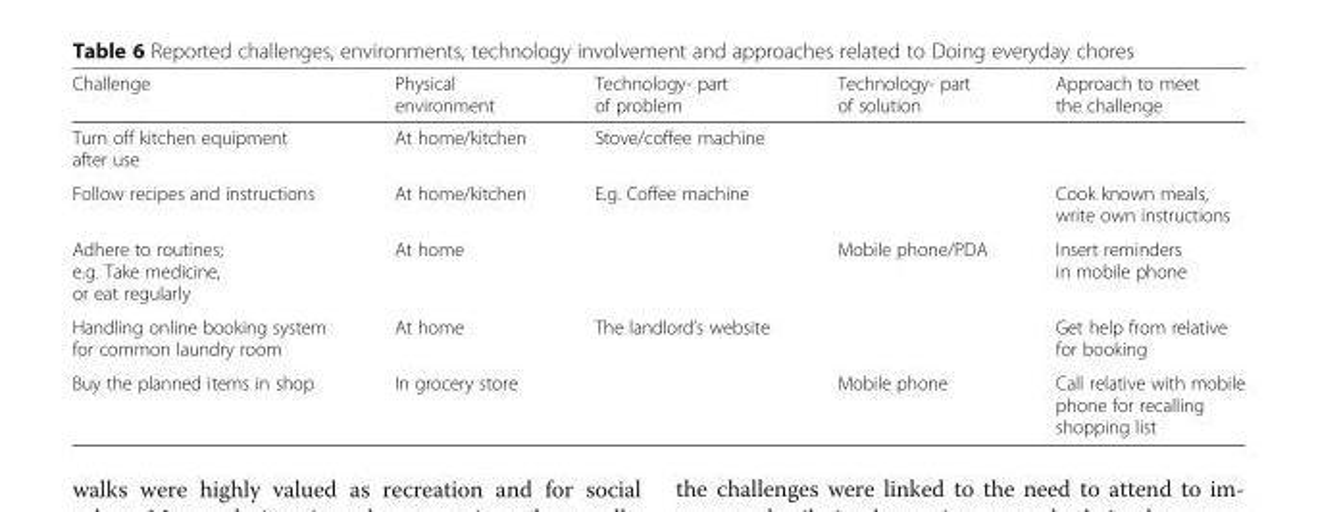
<table><thead><tr><td>Challenge</td><td>Physical environment</td><td>Technology- part of problem</td><td>Technology- part of solution</td><td>Approach to meet the challenge</td></tr></thead><tbody><tr><td>Turn off kitchen equipment after use</td><td>At home/kitchen</td><td>Stove/coffee machine</td><td></td><td></td></tr><tr><td>Follow recipes and instructions</td><td>At home/kitchen</td><td>E.g. Coffee machine</td><td></td><td>Cook known meals, write own instructions</td></tr><tr><td>Adhere to routines; e.g. Take medicine, or eat regularly</td><td>At home</td><td></td><td>Mobile phone/PDA</td><td>Insert reminders in mobile phone</td></tr><tr><td>Handling online booking system for common laundry room</td><td>At home</td><td>The landlord’s website</td><td></td><td>Get help from relative for booking</td></tr><tr><td>Buy the planned items in shop</td><td>In grocery store</td><td></td><td>Mobile phone</td><td>Call relative with mobile phone for recalling shopping list</td></tr></tbody></table>